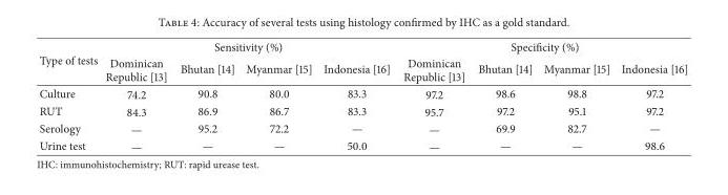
<table><thead><tr><td rowspan="2">Type of tests</td><td colspan="4">Sensitivity (%)</td><td colspan="4">Specificity (%)</td></tr><tr><td>Dominican Republic [13]</td><td>Bhutan [14]</td><td>Myanmar [15]</td><td>Indonesia [16]</td><td>Dominican Republic [13]</td><td>Bhutan [14]</td><td>Myanmar [15]</td><td>Indonesia [16]</td></tr></thead><tbody><tr><td>Culture</td><td>74.2</td><td>90.8</td><td>80.0</td><td>83.3</td><td>97.2</td><td>98.6</td><td>98.8</td><td>97.2</td></tr><tr><td>RUT</td><td>84.3</td><td>86.9</td><td>86.7</td><td>83.3</td><td>95.7</td><td>97.2</td><td>95.1</td><td>97.2</td></tr><tr><td>Serology</td><td>—</td><td>95.2</td><td>72.2</td><td>—</td><td>—</td><td>69.9</td><td>82.7</td><td>—</td></tr><tr><td>Urine test</td><td>—</td><td>—</td><td>—</td><td>50.0</td><td>—</td><td>—</td><td>—</td><td>98.6</td></tr></tbody></table>